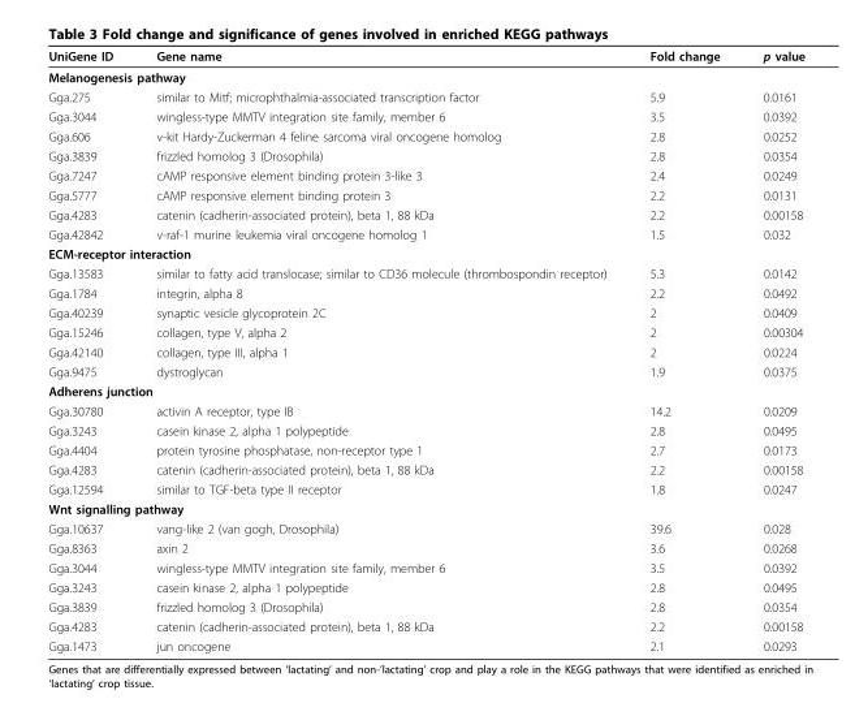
<table><thead><tr><td>UniGene ID</td><td>Gene name</td><td>Fold change</td><td>p value</td></tr></thead><tbody><tr><td colspan="4">Melanogenesis pathway</td></tr><tr><td>Gga.275</td><td>similar to Mitf; microphthalmia-associated transcription factor</td><td>5.9</td><td>0.0161</td></tr><tr><td>Gga.3044</td><td>wingless-type MMTV integration site family, member 6</td><td>3.5</td><td>0.0392</td></tr><tr><td>Gga.606</td><td>v-kit Hardy-Zuckerman 4 feline sarcoma viral oncogene homolog</td><td>2.8</td><td>0.0252</td></tr><tr><td>Gga.3839</td><td>frizzled homolog 3 (Drosophila)</td><td>2.8</td><td>0.0354</td></tr><tr><td>Gga.7247</td><td>cAMP responsive element binding protein 3-like 3</td><td>2.4</td><td>0.0249</td></tr><tr><td>Gga.5777</td><td>cAMP responsive element binding protein 3</td><td>2.2</td><td>0.0131</td></tr><tr><td>Gga.4283</td><td>catenin (cadherin-associated protein), beta 1, 88 kDa</td><td>2.2</td><td>0.00158</td></tr><tr><td>Gga.42842</td><td>v-raf-1 murine leukemia viral oncogene homolog 1</td><td>1.5</td><td>0.032</td></tr><tr><td colspan="4">ECM-receptor interaction</td></tr><tr><td>Gga.13583</td><td>similar to fatty acid translocase; similar to CD36 molecule (thrombospondin receptor)</td><td>5.3</td><td>0.0142</td></tr><tr><td>Gga.1784</td><td>integrin, alpha 8</td><td>2.2</td><td>0.0492</td></tr><tr><td>Gga.40239</td><td>synaptic vesicle glycoprotein 2C</td><td>2</td><td>0.0409</td></tr><tr><td>Gga.15246</td><td>collagen, type V, alpha 2</td><td>2</td><td>0.00304</td></tr><tr><td>Gga.42140</td><td>collagen, type III, alpha 1</td><td>2</td><td>0.0224</td></tr><tr><td>Gga.9475</td><td>dystroglycan</td><td>1.9</td><td>0.0375</td></tr><tr><td colspan="4">Adherens junction</td></tr><tr><td>Gga.30780</td><td>activin A receptor, type IB</td><td>14.2</td><td>0.0209</td></tr><tr><td>Gga.3243</td><td>casein kinase 2, alpha 1 polypeptide</td><td>2.8</td><td>0.0495</td></tr><tr><td>Gga.4404</td><td>protein tyrosine phosphatase, non-receptor type 1</td><td>2.7</td><td>0.0173</td></tr><tr><td>Gga.4283</td><td>catenin (cadherin-associated protein), beta 1, 88 kDa</td><td>2.2</td><td>0.00158</td></tr><tr><td>Gga.12594</td><td>similar to TGF-beta type II receptor</td><td>1.8</td><td>0.0247</td></tr><tr><td colspan="4">Wnt signalling pathway</td></tr><tr><td>Gga.10637</td><td>vang-like 2 (van gogh, Drosophila)</td><td>39.6</td><td>0.028</td></tr><tr><td>Gga.8363</td><td>axin 2</td><td>3.6</td><td>0.0268</td></tr><tr><td>Gga.3044</td><td>wingless-type MMTV integration site family, member 6</td><td>3.5</td><td>0.0392</td></tr><tr><td>Gga.3243</td><td>casein kinase 2, alpha 1 polypeptide</td><td>2.8</td><td>0.0495</td></tr><tr><td>Gga.3839</td><td>frizzled homolog 3 (Drosophila)</td><td>2.8</td><td>0.0354</td></tr><tr><td>Gga.4283</td><td>catenin (cadherin-associated protein), beta 1, 88 kDa</td><td>2.2</td><td>0.00158</td></tr><tr><td>Gga.1473</td><td>jun oncogene</td><td>2.1</td><td>0.0293</td></tr></tbody></table>